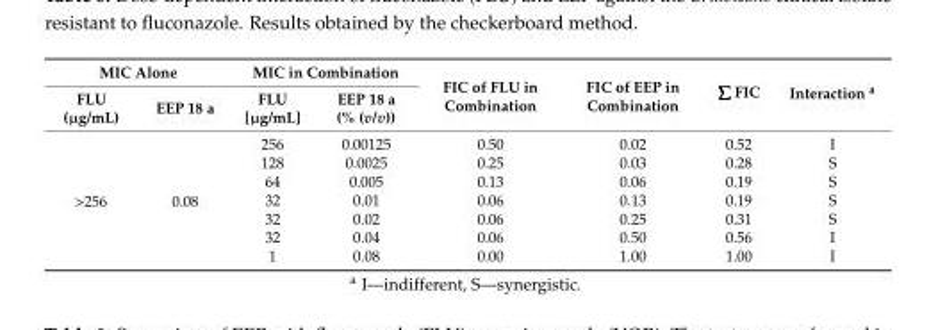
<table><thead><tr><td colspan="2">MIC Alone</td><td colspan="2">MIC in Combination</td><td rowspan="2">FIC of FLU in Combination</td><td rowspan="2">FIC of EEP in Combination</td><td rowspan="2">∑∑∑ FIC</td><td rowspan="2">Interaction <sup>a</sup></td></tr><tr><td>FLU (µg/mL)</td><td>EEP 18 a</td><td>FLU [µg/mL]</td><td>EEP 18 a (% (v/v))</td></tr></thead><tbody><tr><td rowspan="7">&gt;256</td><td rowspan="7">0.08</td><td>256</td><td>0.00125</td><td>0.50</td><td>0.02</td><td>0.52</td><td>I</td></tr><tr><td>128</td><td>0.0025</td><td>0.25</td><td>0.03</td><td>0.28</td><td>S</td></tr><tr><td>64</td><td>0.005</td><td>0.13</td><td>0.06</td><td>0.19</td><td>S</td></tr><tr><td>32</td><td>0.01</td><td>0.06</td><td>0.13</td><td>0.19</td><td>S</td></tr><tr><td>32</td><td>0.02</td><td>0.06</td><td>0.25</td><td>0.31</td><td>S</td></tr><tr><td>32</td><td>0.04</td><td>0.06</td><td>0.50</td><td>0.56</td><td>I</td></tr><tr><td>1</td><td>0.08</td><td>0.00</td><td>1.00</td><td>1.00</td><td>I</td></tr></tbody></table>